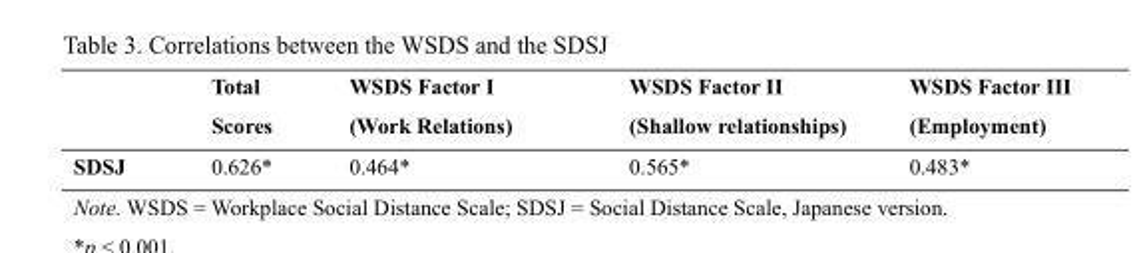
<table><thead><tr><td></td><td>Total Scores</td><td>WSDS Factor I (Work Relations)</td><td>WSDS Factor II (Shallow relationships)</td><td>WSDS Factor III (Employment)</td></tr></thead><tbody><tr><td>SDSJ</td><td>0.626*</td><td>0.464*</td><td>0.565*</td><td>0.483*</td></tr></tbody></table>